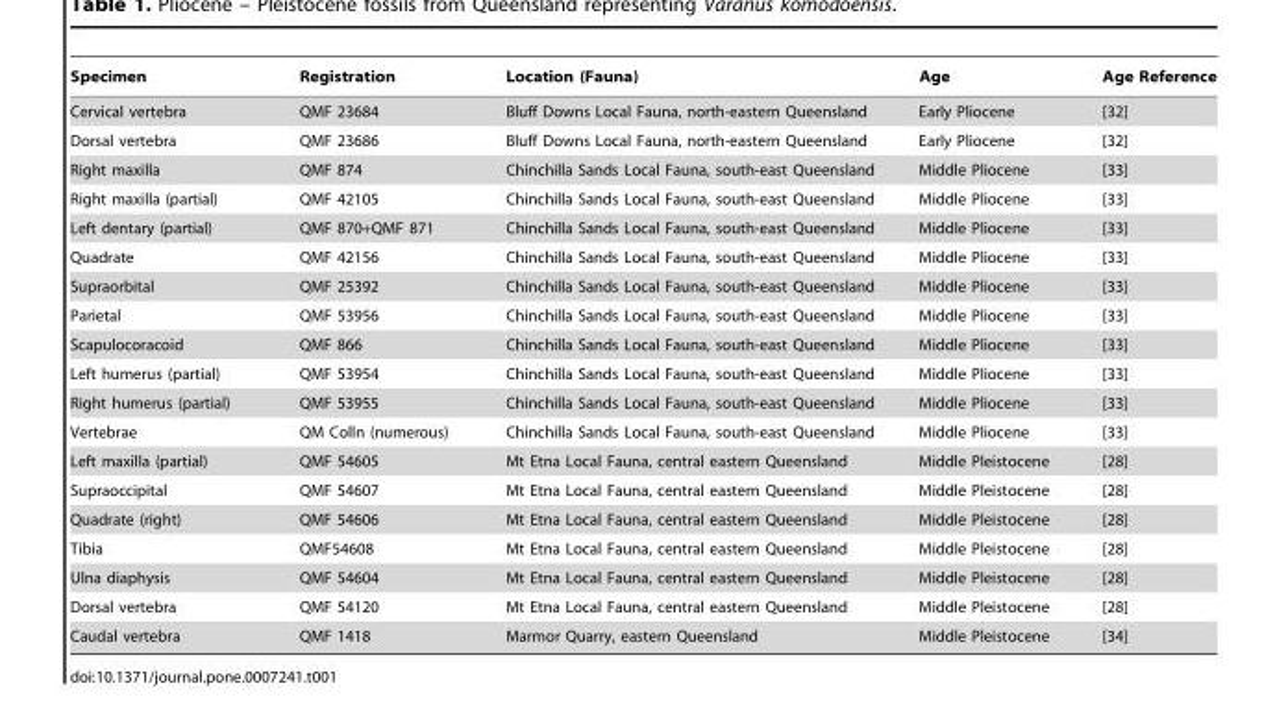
<table><thead><tr><td>Specimen</td><td>Registration</td><td>Location (Fauna)</td><td>Age</td><td>Age Reference</td></tr></thead><tbody><tr><td>Cervical vertebra</td><td>QMF 23684</td><td>Bluff Downs Local Fauna, north-eastern Queensland</td><td>Early Pliocene</td><td>[32]</td></tr><tr><td>Dorsal vertebra</td><td>QMF 23686</td><td>Bluff Downs Local Fauna, north-eastern Queensland</td><td>Early Pliocene</td><td>[32]</td></tr><tr><td>Right maxilla</td><td>QMF 874</td><td>Chinchilla Sands Local Fauna, south-east Queensland</td><td>Middle Pliocene</td><td>[33]</td></tr><tr><td>Right maxilla (partial)</td><td>QMF 42105</td><td>Chinchilla Sands Local Fauna, south-east Queensland</td><td>Middle Pliocene</td><td>[33]</td></tr><tr><td>Left dentary (partial)</td><td>QMF 870+QMF 871</td><td>Chinchilla Sands Local Fauna, south-east Queensland</td><td>Middle Pliocene</td><td>[33]</td></tr><tr><td>Quadrate</td><td>QMF 42156</td><td>Chinchilla Sands Local Fauna, south-east Queensland</td><td>Middle Pliocene</td><td>[33]</td></tr><tr><td>Supraorbital</td><td>QMF 25392</td><td>Chinchilla Sands Local Fauna, south-east Queensland</td><td>Middle Pliocene</td><td>[33]</td></tr><tr><td>Parietal</td><td>QMF 53956</td><td>Chinchilla Sands Local Fauna, south-east Queensland</td><td>Middle Pliocene</td><td>[33]</td></tr><tr><td>Scapulocoracoid</td><td>QMF 866</td><td>Chinchilla Sands Local Fauna, south-east Queensland</td><td>Middle Pliocene</td><td>[33]</td></tr><tr><td>Left humerus (partial)</td><td>QMF 53954</td><td>Chinchilla Sands Local Fauna, south-east Queensland</td><td>Middle Pliocene</td><td>[33]</td></tr><tr><td>Right humerus (partial)</td><td>QMF 53955</td><td>Chinchilla Sands Local Fauna, south-east Queensland</td><td>Middle Pliocene</td><td>[33]</td></tr><tr><td>Vertebrae</td><td>QM Colln (numerous)</td><td>Chinchilla Sands Local Fauna, south-east Queensland</td><td>Middle Pliocene</td><td>[33]</td></tr><tr><td>Left maxilla (partial)</td><td>QMF 54605</td><td>Mt Etna Local Fauna, central eastern Queensland</td><td>Middle Pleistocene</td><td>[28]</td></tr><tr><td>Supraoccipital</td><td>QMF 54607</td><td>Mt Etna Local Fauna, central eastern Queensland</td><td>Middle Pleistocene</td><td>[28]</td></tr><tr><td>Quadrate (right)</td><td>QMF 54606</td><td>Mt Etna Local Fauna, central eastern Queensland</td><td>Middle Pleistocene</td><td>[28]</td></tr><tr><td>Tibia</td><td>QMF54608</td><td>Mt Etna Local Fauna, central eastern Queensland</td><td>Middle Pleistocene</td><td>[28]</td></tr><tr><td>Ulna diaphysis</td><td>QMF 54604</td><td>Mt Etna Local Fauna, central eastern Queensland</td><td>Middle Pleistocene</td><td>[28]</td></tr><tr><td>Dorsal vertebra</td><td>QMF 54120</td><td>Mt Etna Local Fauna, central eastern Queensland</td><td>Middle Pleistocene</td><td>[28]</td></tr><tr><td>Caudal vertebra</td><td>QMF 1418</td><td>Marmor Quarry, eastern Queensland</td><td>Middle Pleistocene</td><td>[34]</td></tr></tbody></table>